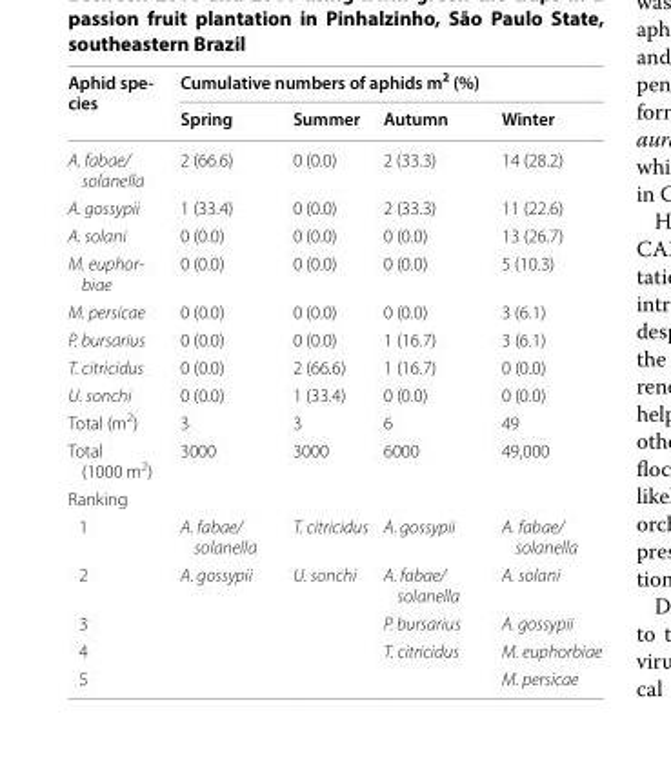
<table><thead><tr><td rowspan="2">Aphid spe- cies</td><td colspan="4">Cumulative numbers of aphids m<sup>2</sup> (%)</td></tr><tr><td>Spring</td><td>Summer</td><td>Autumn</td><td>Winter</td></tr></thead><tbody><tr><td>A. fabae/ solanella</td><td>2 (66.6)</td><td>0 (0.0)</td><td>2 (33.3)</td><td>14 (28.2)</td></tr><tr><td>A. gossypii</td><td>1 (33.4)</td><td>0 (0.0)</td><td>2 (33.3)</td><td>11 (22.6)</td></tr><tr><td>A. solani</td><td>0 (0.0)</td><td>0 (0.0)</td><td>0 (0.0)</td><td>13 (26.7)</td></tr><tr><td>M. euphor- biae</td><td>0 (0.0)</td><td>0 (0.0)</td><td>0 (0.0)</td><td>5 (10.3)</td></tr><tr><td>M. persicae</td><td>0 (0.0)</td><td>0 (0.0)</td><td>0 (0.0)</td><td>3 (6.1)</td></tr><tr><td>P. bursarius</td><td>0 (0.0)</td><td>0 (0.0)</td><td>1 (16.7)</td><td>3 (6.1)</td></tr><tr><td>T. citricidus</td><td>0 (0.0)</td><td>2 (66.6)</td><td>1 (16.7)</td><td>0 (0.0)</td></tr><tr><td>U. sonchi</td><td>0 (0.0)</td><td>1 (33.4)</td><td>0 (0.0)</td><td>0 (0.0)</td></tr><tr><td>Total (m<sup>2</sup>)</td><td>3</td><td>3</td><td>6</td><td>49</td></tr><tr><td>Total (1000 m<sup>2</sup>)</td><td>3000</td><td>3000</td><td>6000</td><td>49,000</td></tr><tr><td colspan="5">Ranking</td></tr><tr><td>1</td><td>A. fabae/ solanella</td><td>T. citricidus</td><td>A. gossypii</td><td>A. fabae/ solanella</td></tr><tr><td>2</td><td>A. gossypii</td><td>U. sonchi</td><td>A. fabae/ solanella</td><td>A. solani</td></tr><tr><td>3</td><td></td><td></td><td>P. bursarius</td><td>A. gossypii</td></tr><tr><td>4</td><td></td><td></td><td>T. citricidus</td><td>M. euphorbiae</td></tr><tr><td>5</td><td></td><td></td><td></td><td>M. persicae</td></tr></tbody></table>